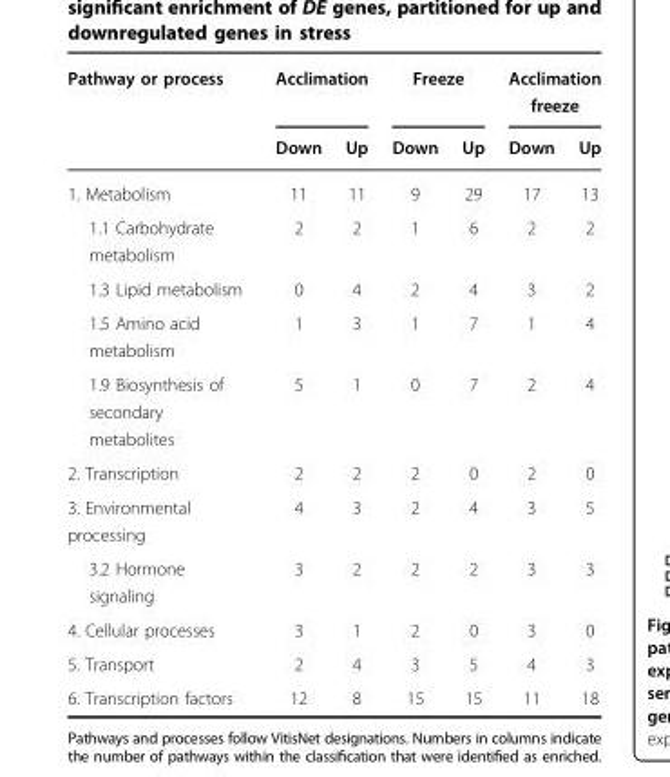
<table><thead><tr><td rowspan="2">Pathway or process</td><td colspan="2">Acclimation</td><td colspan="2">Freeze</td><td colspan="2">Acclimation freeze</td></tr><tr><td>Down</td><td>Up</td><td>Down</td><td>Up</td><td>Down</td><td>Up</td></tr></thead><tbody><tr><td>1. Metabolism</td><td>11</td><td>11</td><td>9</td><td>29</td><td>17</td><td>13</td></tr><tr><td>1.1 Carbohydrate metabolism</td><td>2</td><td>2</td><td>1</td><td>6</td><td>2</td><td>2</td></tr><tr><td>1.3 Lipid metabolism</td><td>0</td><td>4</td><td>2</td><td>4</td><td>3</td><td>2</td></tr><tr><td>1.5 Amino acid metabolism</td><td>1</td><td>3</td><td>1</td><td>7</td><td>1</td><td>4</td></tr><tr><td>1.9 Biosynthesis of secondary metabolites</td><td>5</td><td>1</td><td>0</td><td>7</td><td>2</td><td>4</td></tr><tr><td>2. Transcription</td><td>2</td><td>2</td><td>2</td><td>0</td><td>2</td><td>0</td></tr><tr><td>3. Environmental processing</td><td>4</td><td>3</td><td>2</td><td>4</td><td>3</td><td>5</td></tr><tr><td>3.2 Hormone signaling</td><td>3</td><td>2</td><td>2</td><td>2</td><td>3</td><td>3</td></tr><tr><td>4. Cellular processes</td><td>3</td><td>1</td><td>2</td><td>0</td><td>3</td><td>0</td></tr><tr><td>5. Transport</td><td>2</td><td>4</td><td>3</td><td>5</td><td>4</td><td>3</td></tr><tr><td>6. Transcription factors</td><td>12</td><td>8</td><td>15</td><td>15</td><td>11</td><td>18</td></tr></tbody></table>